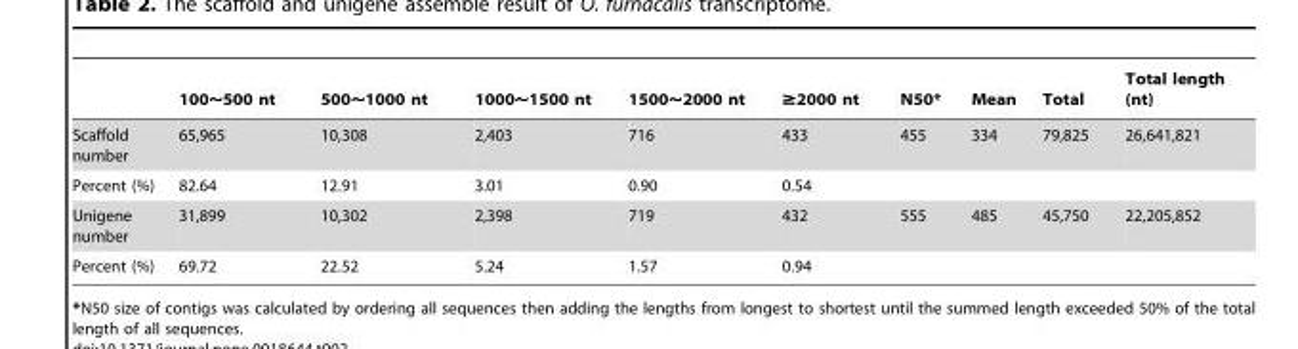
<table><thead><tr><td></td><td>100∼500 nt</td><td>500∼1000 nt</td><td>1000∼1500 nt</td><td>1500∼2000 nt</td><td>≥2000 nt</td><td>N50*</td><td>Mean</td><td>Total</td><td>Total length (nt)</td></tr></thead><tbody><tr><td>Scaffold number</td><td>65,965</td><td>10,308</td><td>2,403</td><td>716</td><td>433</td><td>455</td><td>334</td><td>79,825</td><td>26,641,821</td></tr><tr><td>Percent (%)</td><td>82.64</td><td>12.91</td><td>3.01</td><td>0.90</td><td>0.54</td><td></td><td></td><td></td><td></td></tr><tr><td>Unigene number</td><td>31,899</td><td>10,302</td><td>2,398</td><td>719</td><td>432</td><td>555</td><td>485</td><td>45,750</td><td>22,205,852</td></tr><tr><td>Percent (%)</td><td>69.72</td><td>22.52</td><td>5.24</td><td>1.57</td><td>0.94</td><td></td><td></td><td></td><td></td></tr></tbody></table>